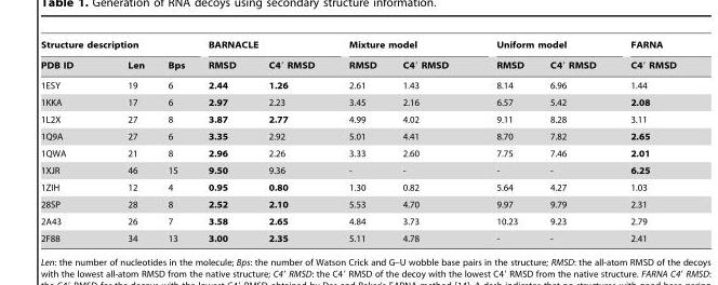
<table><thead><tr><td colspan="3">Structure description</td><td colspan="2">BARNACLE</td><td colspan="2">Mixture model</td><td colspan="2">Uniform model</td><td rowspan="2">FARNA C4′ RMSD</td></tr><tr><td>PDB ID</td><td>Len</td><td>Bps</td><td>RMSD</td><td>C4′ RMSD</td><td>RMSD</td><td>C4′ RMSD</td><td>RMSD</td><td>C4′ RMSD</td></tr></thead><tbody><tr><td>1ESY</td><td>19</td><td>6</td><td>2.44</td><td>1.26</td><td>2.61</td><td>1.43</td><td>8.14</td><td>6.96</td><td>1.44</td></tr><tr><td>1KKA</td><td>17</td><td>6</td><td>2.97</td><td>2.23</td><td>3.45</td><td>2.16</td><td>6.57</td><td>5.42</td><td>2.08</td></tr><tr><td>1L2X</td><td>27</td><td>8</td><td>3.87</td><td>2.77</td><td>4.99</td><td>4.02</td><td>9.11</td><td>8.28</td><td>3.11</td></tr><tr><td>1Q9A</td><td>27</td><td>6</td><td>3.35</td><td>2.92</td><td>5.01</td><td>4.41</td><td>8.70</td><td>7.82</td><td>2.65</td></tr><tr><td>1QWA</td><td>21</td><td>8</td><td>2.96</td><td>2.26</td><td>3.33</td><td>2.60</td><td>7.75</td><td>7.46</td><td>2.01</td></tr><tr><td>1XJR</td><td>46</td><td>15</td><td>9.50</td><td>9.36</td><td>-</td><td>-</td><td>-</td><td>-</td><td>6.25</td></tr><tr><td>1ZIH</td><td>12</td><td>4</td><td>0.95</td><td>0.80</td><td>1.30</td><td>0.82</td><td>5.64</td><td>4.27</td><td>1.03</td></tr><tr><td>28SP</td><td>28</td><td>8</td><td>2.52</td><td>2.10</td><td>5.53</td><td>4.70</td><td>9.97</td><td>9.79</td><td>2.31</td></tr><tr><td>2A43</td><td>26</td><td>7</td><td>3.58</td><td>2.65</td><td>4.84</td><td>3.73</td><td>10.23</td><td>9.23</td><td>2.79</td></tr><tr><td>2F88</td><td>34</td><td>13</td><td>3.00</td><td>2.35</td><td>5.11</td><td>4.78</td><td>-</td><td>-</td><td>2.41</td></tr></tbody></table>